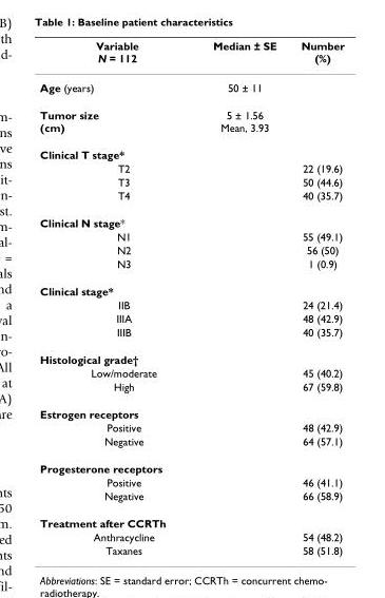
<table><thead><tr><td>Variable N = 112</td><td>Median ± SE</td><td>Number (%)</td></tr></thead><tbody><tr><td>Age (years)</td><td>50 ± 11</td><td></td></tr><tr><td>Tumor size (cm)</td><td>5 ± 1.56 Mean, 3.93</td><td></td></tr><tr><td colspan="3">Clinical T stage*</td></tr><tr><td>T2</td><td></td><td>22 (19.6)</td></tr><tr><td>T3</td><td></td><td>50 (44.6)</td></tr><tr><td>T4</td><td></td><td>40 (35.7)</td></tr><tr><td colspan="3">Clinical N stage*</td></tr><tr><td>N1</td><td></td><td>55 (49.1)</td></tr><tr><td>N2</td><td></td><td>56 (50)</td></tr><tr><td>N3</td><td></td><td>1 (0.9)</td></tr><tr><td colspan="3">Clinical stage*</td></tr><tr><td>IIB</td><td></td><td>24 (21.4)</td></tr><tr><td>IIIA</td><td></td><td>48 (42.9)</td></tr><tr><td>IIIB</td><td></td><td>40 (35.7)</td></tr><tr><td colspan="3">Histological grade†</td></tr><tr><td>Low/moderate</td><td></td><td>45 (40.2)</td></tr><tr><td>High</td><td></td><td>67 (59.8)</td></tr><tr><td colspan="3">Estrogen receptors</td></tr><tr><td>Positive</td><td></td><td>48 (42.9)</td></tr><tr><td>Negative</td><td></td><td>64 (57.1)</td></tr><tr><td colspan="3">Progesterone receptors</td></tr><tr><td>Positive</td><td></td><td>46 (41.1)</td></tr><tr><td>Negative</td><td></td><td>66 (58.9)</td></tr><tr><td colspan="3">Treatment after CCRTh</td></tr><tr><td>Anthracycline</td><td></td><td>54 (48.2)</td></tr><tr><td>Taxanes</td><td></td><td>58 (51.8)</td></tr></tbody></table>